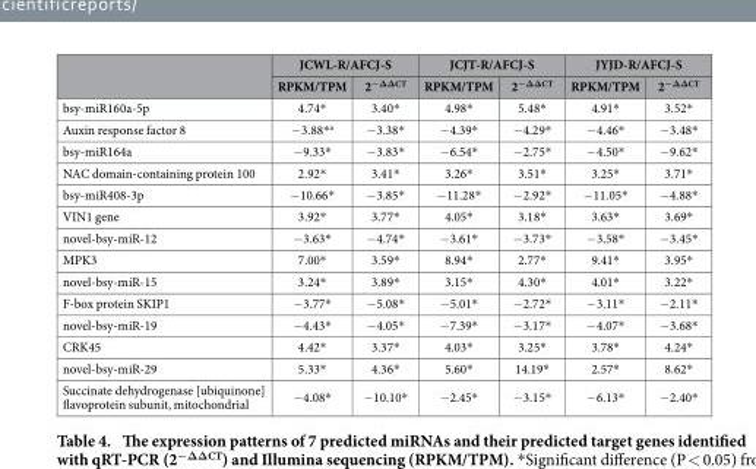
<table><thead><tr><td rowspan="2"></td><td colspan="2">JCWL-R/AFCJ-S</td><td colspan="2">JCJT-R/AFCJ-S</td><td colspan="2">JYJD-R/AFCJ-S</td></tr><tr><td>RPKM/TPM</td><td>2<sup>−ΔΔCT</sup></td><td>RPKM/TPM</td><td>2<sup>−ΔΔCT</sup></td><td>RPKM/TPM</td><td>2<sup>−ΔΔCT</sup></td></tr></thead><tbody><tr><td>bsy-miR160a-5p</td><td>4.74*</td><td>3.40*</td><td>4.98*</td><td>5.48*</td><td>4.91*</td><td>3.52*</td></tr><tr><td>Auxin response factor 8</td><td>− 3.88*<sup>a</sup></td><td>− 3.38*</td><td>− 4.39*</td><td>− 4.29*</td><td>− 4.46*</td><td>− 3.48*</td></tr><tr><td>bsy-miR164a</td><td>− 9.33*</td><td>− 3.83*</td><td>− 6.54*</td><td>− 2.75*</td><td>− 4.50*</td><td>− 9.62*</td></tr><tr><td>NAC domain-containing protein 100</td><td>2.92*</td><td>3.41*</td><td>3.26*</td><td>3.51*</td><td>3.25*</td><td>3.71*</td></tr><tr><td>bsy-miR408-3p</td><td>− 10.66*</td><td>− 3.85*</td><td>− 11.28*</td><td>− 2.92*</td><td>− 11.05*</td><td>− 4.88*</td></tr><tr><td>VIN1 gene</td><td>3.92*</td><td>3.77*</td><td>4.05*</td><td>3.18*</td><td>3.63*</td><td>3.69*</td></tr><tr><td>novel-bsy-miR-12</td><td>− 3.63*</td><td>− 4.74*</td><td>− 3.61*</td><td>− 3.73*</td><td>− 3.58*</td><td>− 3.45*</td></tr><tr><td>MPK3</td><td>7.00*</td><td>3.59*</td><td>8.94*</td><td>2.77*</td><td>9.41*</td><td>3.95*</td></tr><tr><td>novel-bsy-miR-15</td><td>3.24*</td><td>3.89*</td><td>3.15*</td><td>4.30*</td><td>4.01*</td><td>3.22*</td></tr><tr><td>F-box protein SKIP1</td><td>− 3.77*</td><td>− 5.08*</td><td>− 5.01*</td><td>− 2.72*</td><td>− 3.11*</td><td>− 2.11*</td></tr><tr><td>novel-bsy-miR-19</td><td>− 4.43*</td><td>− 4.05*</td><td>− 7.39*</td><td>− 3.17*</td><td>− 4.07*</td><td>− 3.68*</td></tr><tr><td>CRK45</td><td>4.42*</td><td>3.37*</td><td>4.03*</td><td>3.25*</td><td>3.78*</td><td>4.24*</td></tr><tr><td>novel-bsy-miR-29</td><td>5.33*</td><td>4.36*</td><td>5.60*</td><td>14.19*</td><td>2.57*</td><td>8.62*</td></tr><tr><td>Succinate dehydrogenase [ubiquinone] flavoprotein subunit, mitochondrial</td><td>− 4.08*</td><td>− 10.10*</td><td>− 2.45*</td><td>− 3.15*</td><td>− 6.13*</td><td>− 2.40*</td></tr></tbody></table>